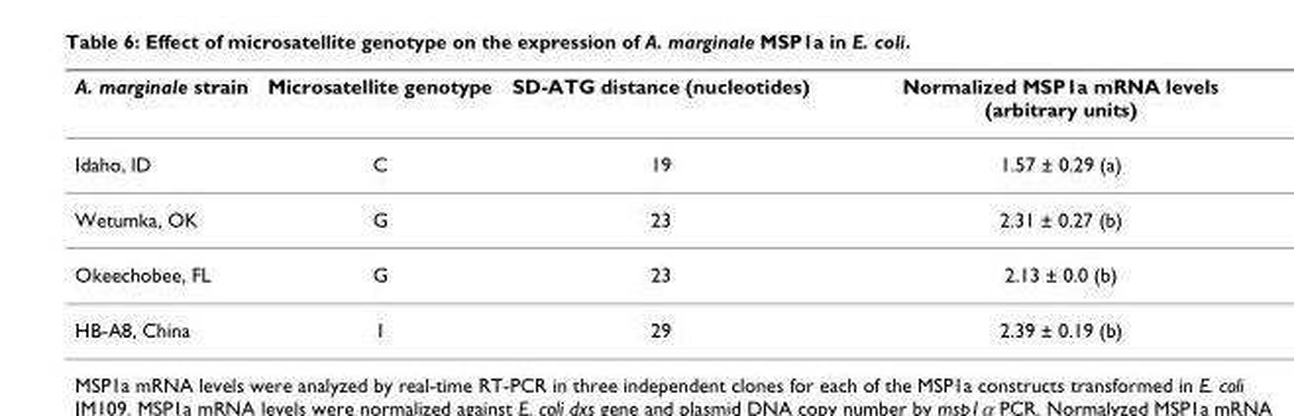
<table><thead><tr><td>A. marginale strain</td><td>Microsatellite genotype</td><td>SD-ATG distance (nucleotides)</td><td>Normalized MSP1a mRNA levels (arbitrary units)</td></tr></thead><tbody><tr><td>Idaho, ID</td><td>C</td><td>19</td><td>1.57 ± 0.29 (a)</td></tr><tr><td>Wetumka, OK</td><td>G</td><td>23</td><td>2.31 ± 0.27 (b)</td></tr><tr><td>Okeechobee, FL</td><td>G</td><td>23</td><td>2.13 ± 0.0 (b)</td></tr><tr><td>HB-A8, China</td><td>I</td><td>29</td><td>2.39 ± 0.19 (b)</td></tr></tbody></table>